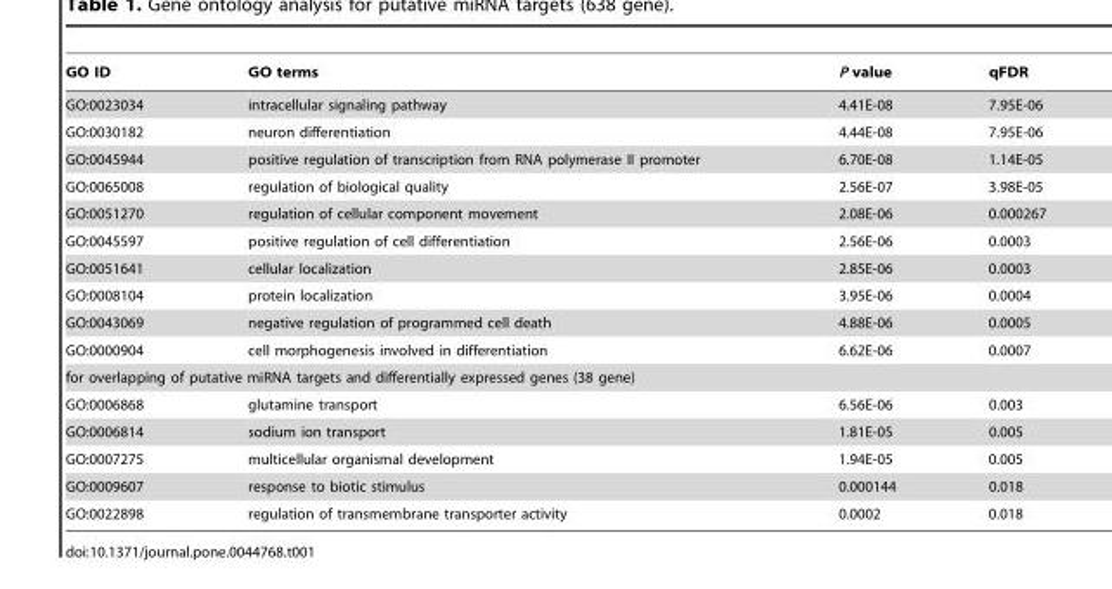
<table><thead><tr><td>GO ID</td><td>GO terms</td><td>P value</td><td>qFDR</td></tr></thead><tbody><tr><td>GO:0023034</td><td>intracellular signaling pathway</td><td>4.41E-08</td><td>7.95E-06</td></tr><tr><td>GO:0030182</td><td>neuron differentiation</td><td>4.44E-08</td><td>7.95E-06</td></tr><tr><td>GO:0045944</td><td>positive regulation of transcription from RNA polymerase II promoter</td><td>6.70E-08</td><td>1.14E-05</td></tr><tr><td>GO:0065008</td><td>regulation of biological quality</td><td>2.56E-07</td><td>3.98E-05</td></tr><tr><td>GO:0051270</td><td>regulation of cellular component movement</td><td>2.08E-06</td><td>0.000267</td></tr><tr><td>GO:0045597</td><td>positive regulation of cell differentiation</td><td>2.56E-06</td><td>0.0003</td></tr><tr><td>GO:0051641</td><td>cellular localization</td><td>2.85E-06</td><td>0.0003</td></tr><tr><td>GO:0008104</td><td>protein localization</td><td>3.95E-06</td><td>0.0004</td></tr><tr><td>GO:0043069</td><td>negative regulation of programmed cell death</td><td>4.88E-06</td><td>0.0005</td></tr><tr><td>GO:0000904</td><td>cell morphogenesis involved in differentiation</td><td>6.62E-06</td><td>0.0007</td></tr><tr><td colspan="4">for overlapping of putative miRNA targets and differentially expressed genes (38 gene)</td></tr><tr><td>GO:0006868</td><td>glutamine transport</td><td>6.56E-06</td><td>0.003</td></tr><tr><td>GO:0006814</td><td>sodium ion transport</td><td>1.81E-05</td><td>0.005</td></tr><tr><td>GO:0007275</td><td>multicellular organismal development</td><td>1.94E-05</td><td>0.005</td></tr><tr><td>GO:0009607</td><td>response to biotic stimulus</td><td>0.000144</td><td>0.018</td></tr><tr><td>GO:0022898</td><td>regulation of transmembrane transporter activity</td><td>0.0002</td><td>0.018</td></tr></tbody></table>